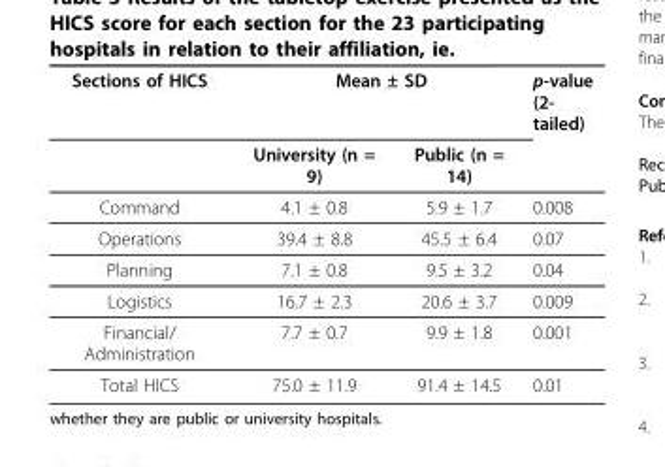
<table><thead><tr><td rowspan="2">Sections of HICS</td><td colspan="2">Mean ± SD</td><td rowspan="2">p-value (2- tailed)</td></tr><tr><td>University (n = 9)</td><td>Public (n = 14)</td></tr></thead><tbody><tr><td>Command</td><td>4.1 ± 0.8</td><td>5.9 ± 1.7</td><td>0.008</td></tr><tr><td>Operations</td><td>39.4 ± 8.8</td><td>45.5 ± 6.4</td><td>0.07</td></tr><tr><td>Planning</td><td>7.1 ± 0.8</td><td>9.5 ± 3.2</td><td>0.04</td></tr><tr><td>Logistics</td><td>16.7 ± 2.3</td><td>20.6 ± 3.7</td><td>0.009</td></tr><tr><td>Financial/ Administration</td><td>7.7 ± 0.7</td><td>9.9 ± 1.8</td><td>0.001</td></tr><tr><td>Total HICS</td><td>75.0 ± 11.9</td><td>91.4 ± 14.5</td><td>0.01</td></tr></tbody></table>